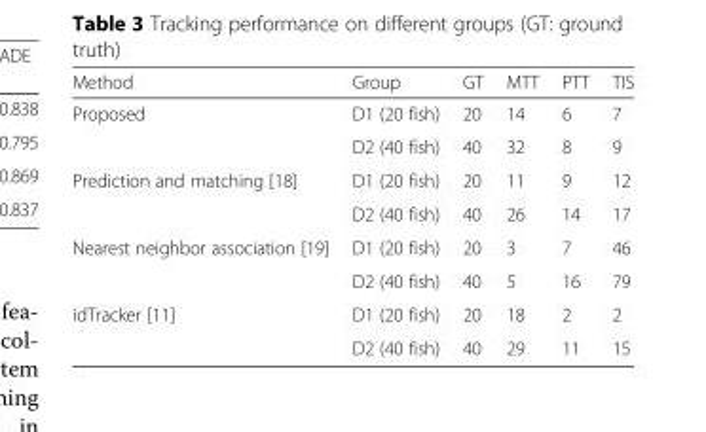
<table><thead><tr><td>Method</td><td>Group</td><td>GT</td><td>MTT</td><td>PTT</td><td>TIS</td></tr></thead><tbody><tr><td rowspan="2">Proposed</td><td>D1 (20 fish)</td><td>20</td><td>14</td><td>6</td><td>7</td></tr><tr><td>D2 (40 fish)</td><td>40</td><td>32</td><td>8</td><td>9</td></tr><tr><td rowspan="2">Prediction and matching [18]</td><td>D1 (20 fish)</td><td>20</td><td>11</td><td>9</td><td>12</td></tr><tr><td>D2 (40 fish)</td><td>40</td><td>26</td><td>14</td><td>17</td></tr><tr><td rowspan="2">Nearest neighbor association [19]</td><td>D1 (20 fish)</td><td>20</td><td>3</td><td>7</td><td>46</td></tr><tr><td>D2 (40 fish)</td><td>40</td><td>5</td><td>16</td><td>79</td></tr><tr><td rowspan="2">idTracker [11]</td><td>D1 (20 fish)</td><td>20</td><td>18</td><td>2</td><td>2</td></tr><tr><td>D2 (40 fish)</td><td>40</td><td>29</td><td>11</td><td>15</td></tr></tbody></table>